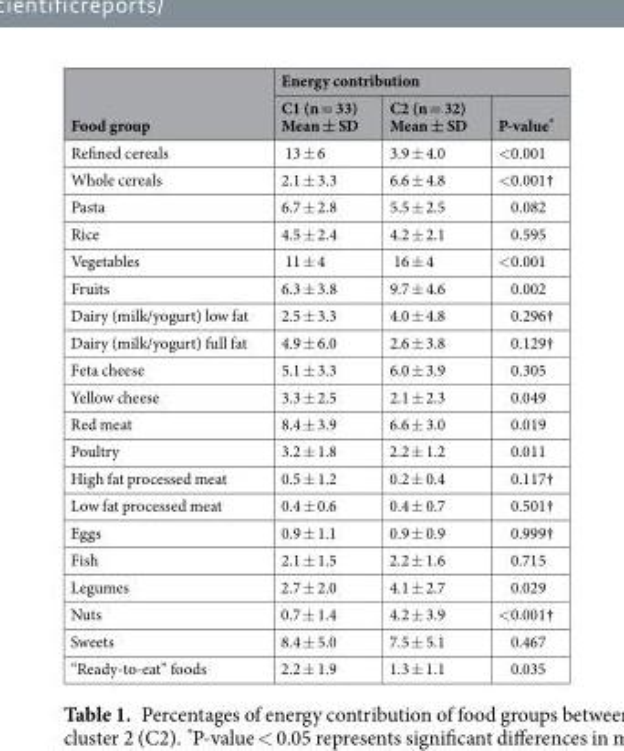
<table><thead><tr><td rowspan="2">Food group</td><td colspan="3">Energy contribution</td></tr><tr><td>C1 (n = 33) Mean ± SD</td><td>C2 (n = 32) Mean ± SD</td><td>P-value*</td></tr></thead><tbody><tr><td>Refined cereals</td><td>13 ± 6</td><td>3.9 ± 4.0</td><td>&lt;0.001</td></tr><tr><td>Whole cereals</td><td>2.1 ± 3.3</td><td>6.6 ± 4.8</td><td>&lt;0.001†</td></tr><tr><td>Pasta</td><td>6.7 ± 2.8</td><td>5.5 ± 2.5</td><td>0.082</td></tr><tr><td>Rice</td><td>4.5 ± 2.4</td><td>4.2 ± 2.1</td><td>0.595</td></tr><tr><td>Vegetables</td><td>11 ± 4</td><td>16 ± 4</td><td>&lt;0.001</td></tr><tr><td>Fruits</td><td>6.3 ± 3.8</td><td>9.7 ± 4.6</td><td>0.002</td></tr><tr><td>Dairy (milk/yogurt) low fat</td><td>2.5 ± 3.3</td><td>4.0 ± 4.8</td><td>0.296†</td></tr><tr><td>Dairy (milk/yogurt) full fat</td><td>4.9 ± 6.0</td><td>2.6 ± 3.8</td><td>0.129†</td></tr><tr><td>Feta cheese</td><td>5.1 ± 3.3</td><td>6.0 ± 3.9</td><td>0.305</td></tr><tr><td>Yellow cheese</td><td>3.3 ± 2.5</td><td>2.1 ± 2.3</td><td>0.049</td></tr><tr><td>Red meat</td><td>8.4 ± 3.9</td><td>6.6 ± 3.0</td><td>0.019</td></tr><tr><td>Poultry</td><td>3.2 ± 1.8</td><td>2.2 ± 1.2</td><td>0.011</td></tr><tr><td>High fat processed meat</td><td>0.5 ± 1.2</td><td>0.2 ± 0.4</td><td>0.117†</td></tr><tr><td>Low fat processed meat</td><td>0.4 ± 0.6</td><td>0.4 ± 0.7</td><td>0.501†</td></tr><tr><td>Eggs</td><td>0.9 ± 1.1</td><td>0.9 ± 0.9</td><td>0.999†</td></tr><tr><td>Fish</td><td>2.1 ± 1.5</td><td>2.2 ± 1.6</td><td>0.715</td></tr><tr><td>Legumes</td><td>2.7 ± 2.0</td><td>4.1 ± 2.7</td><td>0.029</td></tr><tr><td>Nuts</td><td>0.7 ± 1.4</td><td>4.2 ± 3.9</td><td>&lt;0.001†</td></tr><tr><td>Sweets</td><td>8.4 ± 5.0</td><td>7.5 ± 5.1</td><td>0.467</td></tr><tr><td>“Ready-to-eat” foods</td><td>2.2 ± 1.9</td><td>1.3 ± 1.1</td><td>0.035</td></tr></tbody></table>